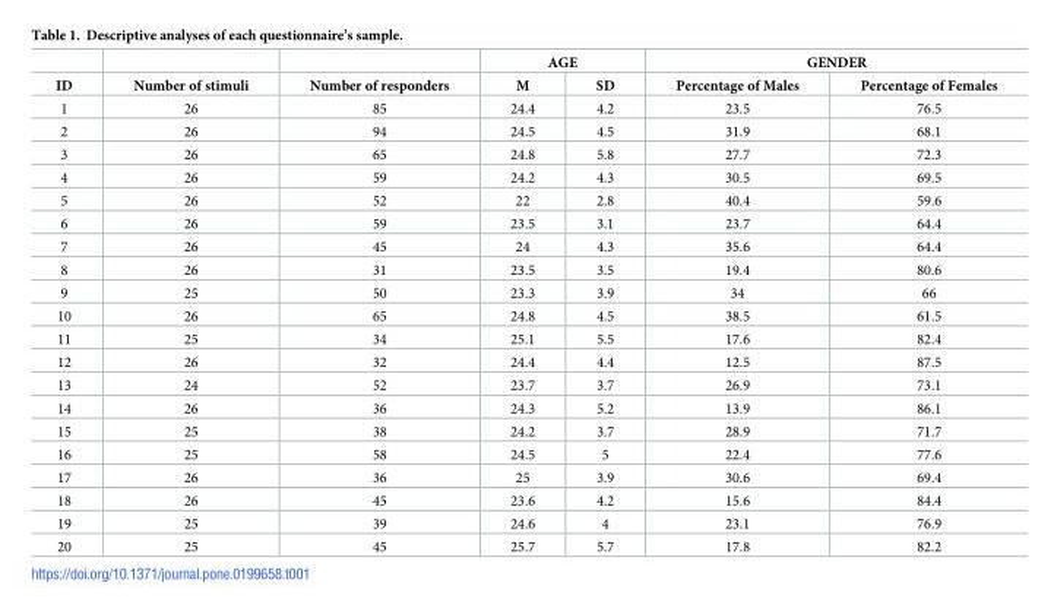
<table><thead><tr><td rowspan="2">ID</td><td rowspan="2">Number of stimuli</td><td rowspan="2">Number of responders</td><td colspan="2">AGE</td><td colspan="2">GENDER</td></tr><tr><td>M</td><td>SD</td><td>Percentage of Males</td><td>Percentage of Females</td></tr></thead><tbody><tr><td>1</td><td>26</td><td>85</td><td>24.4</td><td>4.2</td><td>23.5</td><td>76.5</td></tr><tr><td>2</td><td>26</td><td>94</td><td>24.5</td><td>4.5</td><td>31.9</td><td>68.1</td></tr><tr><td>3</td><td>26</td><td>65</td><td>24.8</td><td>5.8</td><td>27.7</td><td>72.3</td></tr><tr><td>4</td><td>26</td><td>59</td><td>24.2</td><td>4.3</td><td>30.5</td><td>69.5</td></tr><tr><td>5</td><td>26</td><td>52</td><td>22</td><td>2.8</td><td>40.4</td><td>59.6</td></tr><tr><td>6</td><td>26</td><td>59</td><td>23.5</td><td>3.1</td><td>23.7</td><td>64.4</td></tr><tr><td>7</td><td>26</td><td>45</td><td>24</td><td>4.3</td><td>35.6</td><td>64.4</td></tr><tr><td>8</td><td>26</td><td>31</td><td>23.5</td><td>3.5</td><td>19.4</td><td>80.6</td></tr><tr><td>9</td><td>25</td><td>50</td><td>23.3</td><td>3.9</td><td>34</td><td>66</td></tr><tr><td>10</td><td>26</td><td>65</td><td>24.8</td><td>4.5</td><td>38.5</td><td>61.5</td></tr><tr><td>11</td><td>25</td><td>34</td><td>25.1</td><td>5.5</td><td>17.6</td><td>82.4</td></tr><tr><td>12</td><td>26</td><td>32</td><td>24.4</td><td>4.4</td><td>12.5</td><td>87.5</td></tr><tr><td>13</td><td>24</td><td>52</td><td>23.7</td><td>3.7</td><td>26.9</td><td>73.1</td></tr><tr><td>14</td><td>26</td><td>36</td><td>24.3</td><td>5.2</td><td>13.9</td><td>86.1</td></tr><tr><td>15</td><td>25</td><td>38</td><td>24.2</td><td>3.7</td><td>28.9</td><td>71.7</td></tr><tr><td>16</td><td>25</td><td>58</td><td>24.5</td><td>5</td><td>22.4</td><td>77.6</td></tr><tr><td>17</td><td>26</td><td>36</td><td>25</td><td>3.9</td><td>30.6</td><td>69.4</td></tr><tr><td>18</td><td>26</td><td>45</td><td>23.6</td><td>4.2</td><td>15.6</td><td>84.4</td></tr><tr><td>19</td><td>25</td><td>39</td><td>24.6</td><td>4</td><td>23.1</td><td>76.9</td></tr><tr><td>20</td><td>25</td><td>45</td><td>25.7</td><td>5.7</td><td>17.8</td><td>82.2</td></tr></tbody></table>